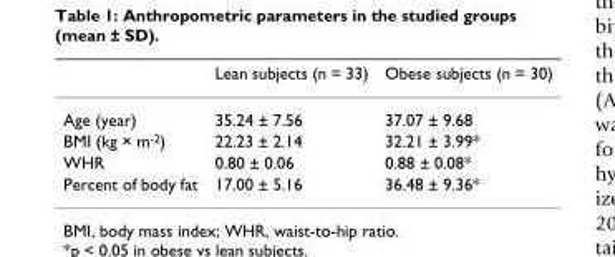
<table><thead><tr><td></td><td>Lean subjects (n = 33)</td><td>Obese subjects (n = 30)</td></tr></thead><tbody><tr><td>Age (year)</td><td>35.24 ± 7.56</td><td>37.07 ± 9.68</td></tr><tr><td>BMI (kg × m<sup>-2</sup>)</td><td>22.23 ± 2.14</td><td>32.21 ± 3.99*</td></tr><tr><td>WHR</td><td>0.80 ± 0.06</td><td>0.88 ± 0.08*</td></tr><tr><td>Percent of body fat</td><td>17.00 ± 5.16</td><td>36.48 ± 9.36*</td></tr></tbody></table>